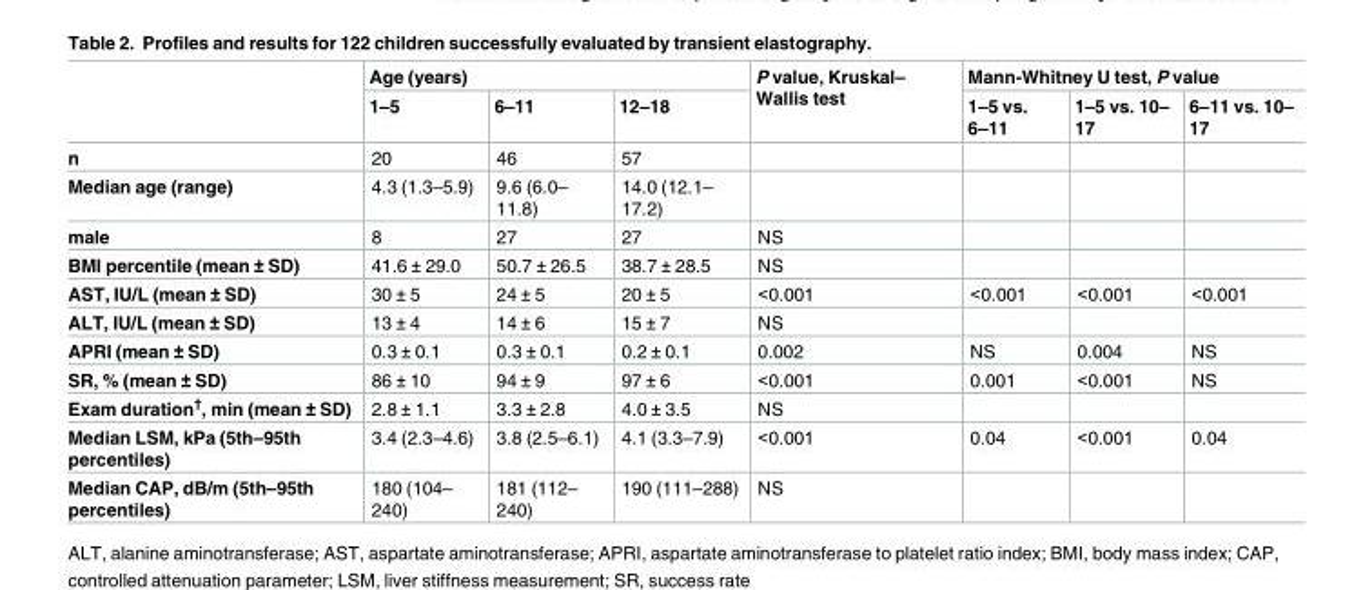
<table><thead><tr><td rowspan="2"></td><td colspan="3">Age (years)</td><td rowspan="2">P value, Kruskal– Wallis test</td><td colspan="3">Mann-Whitney U test, P value</td></tr><tr><td>1–5</td><td>6–11</td><td>12–18</td><td>1–5 vs. 6–11</td><td>1–5 vs. 10– 17</td><td>6–11 vs. 10– 17</td></tr></thead><tbody><tr><td>n</td><td>20</td><td>46</td><td>57</td><td></td><td></td><td></td><td></td></tr><tr><td>Median age (range)</td><td>4.3 (1.3–5.9)</td><td>9.6 (6.0– 11.8)</td><td>14.0 (12.1– 17.2)</td><td></td><td></td><td></td><td></td></tr><tr><td>male</td><td>8</td><td>27</td><td>27</td><td>NS</td><td></td><td></td><td></td></tr><tr><td>BMI percentile (mean ± SD)</td><td>41.6 ± 29.0</td><td>50.7 ± 26.5</td><td>38.7 ± 28.5</td><td>NS</td><td></td><td></td><td></td></tr><tr><td>AST, IU/L (mean ± SD)</td><td>30 ± 5</td><td>24 ± 5</td><td>20 ± 5</td><td>&lt;0.001</td><td>&lt;0.001</td><td>&lt;0.001</td><td>&lt;0.001</td></tr><tr><td>ALT, IU/L (mean ± SD)</td><td>13 ± 4</td><td>14 ± 6</td><td>15 ± 7</td><td>NS</td><td></td><td></td><td></td></tr><tr><td>APRI (mean ± SD)</td><td>0.3 ± 0.1</td><td>0.3 ± 0.1</td><td>0.2 ± 0.1</td><td>0.002</td><td>NS</td><td>0.004</td><td>NS</td></tr><tr><td>SR, % (mean ± SD)</td><td>86 ± 10</td><td>94 ± 9</td><td>97 ± 6</td><td>&lt;0.001</td><td>0.001</td><td>&lt;0.001</td><td>NS</td></tr><tr><td>Exam duration<sup>†</sup>, min (mean ± SD)</td><td>2.8 ± 1.1</td><td>3.3 ± 2.8</td><td>4.0 ± 3.5</td><td>NS</td><td></td><td></td><td></td></tr><tr><td>Median LSM, kPa (5th–95th percentiles)</td><td>3.4 (2.3–4.6)</td><td>3.8 (2.5–6.1)</td><td>4.1 (3.3–7.9)</td><td>&lt;0.001</td><td>0.04</td><td>&lt;0.001</td><td>0.04</td></tr><tr><td>Median CAP, dB/m (5th–95th percentiles)</td><td>180 (104– 240)</td><td>181 (112– 240)</td><td>190 (111–288)</td><td>NS</td><td></td><td></td><td></td></tr></tbody></table>